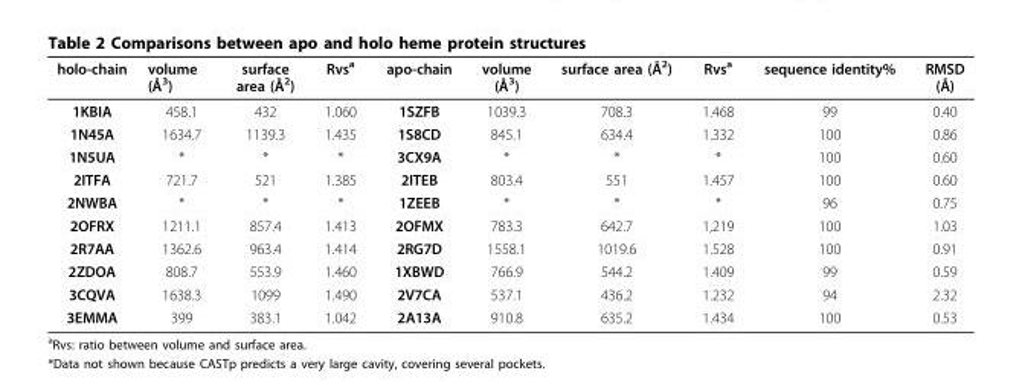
<table><thead><tr><td>holo-chain</td><td>volume (Å<sup>3</sup>)</td><td>surface area (Å<sup>2</sup>)</td><td>Rvs<sup>a</sup></td><td>apo-chain</td><td>volume (Å<sup>3</sup>)</td><td>surface area (Å<sup>2</sup>)</td><td>Rvs<sup>a</sup></td><td>sequence identity%</td><td>RMSD (Å)</td></tr></thead><tbody><tr><td>1KBIA</td><td>458.1</td><td>432</td><td>1.060</td><td>1SZFB</td><td>1039.3</td><td>708.3</td><td>1.468</td><td>99</td><td>0.40</td></tr><tr><td>1N45A</td><td>1634.7</td><td>1139.3</td><td>1.435</td><td>1S8CD</td><td>845.1</td><td>634.4</td><td>1.332</td><td>100</td><td>0.86</td></tr><tr><td>1N5UA</td><td>*</td><td>*</td><td>*</td><td>3CX9A</td><td>*</td><td>*</td><td>*</td><td>100</td><td>0.60</td></tr><tr><td>2ITFA</td><td>721.7</td><td>521</td><td>1.385</td><td>2ITEB</td><td>803.4</td><td>551</td><td>1.457</td><td>100</td><td>0.60</td></tr><tr><td>2NWBA</td><td>*</td><td>*</td><td>*</td><td>1ZEEB</td><td>*</td><td>*</td><td>*</td><td>96</td><td>0.75</td></tr><tr><td>2OFRX</td><td>1211.1</td><td>857.4</td><td>1.413</td><td>2OFMX</td><td>783.3</td><td>642.7</td><td>1,219</td><td>100</td><td>1.03</td></tr><tr><td>2R7AA</td><td>1362.6</td><td>963.4</td><td>1.414</td><td>2RG7D</td><td>1558.1</td><td>1019.6</td><td>1.528</td><td>100</td><td>0.91</td></tr><tr><td>2ZDOA</td><td>808.7</td><td>553.9</td><td>1.460</td><td>1XBWD</td><td>766.9</td><td>544.2</td><td>1.409</td><td>99</td><td>0.59</td></tr><tr><td>3CQVA</td><td>1638.3</td><td>1099</td><td>1.490</td><td>2V7CA</td><td>537.1</td><td>436.2</td><td>1.232</td><td>94</td><td>2.32</td></tr><tr><td>3EMMA</td><td>399</td><td>383.1</td><td>1.042</td><td>2A13A</td><td>910.8</td><td>635.2</td><td>1.434</td><td>100</td><td>0.53</td></tr></tbody></table>